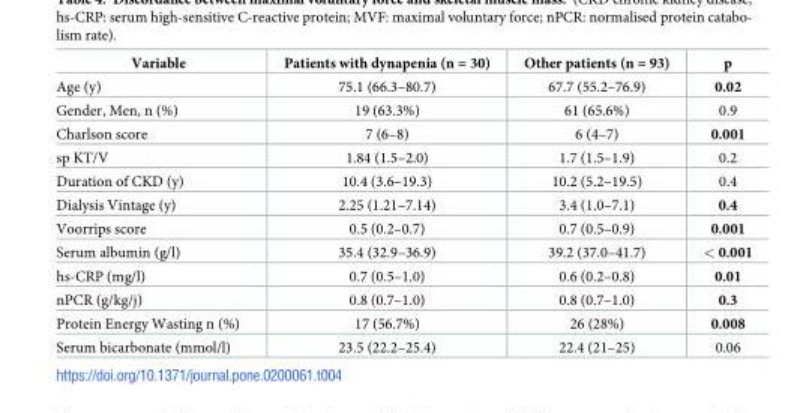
<table><thead><tr><td>Variable</td><td>Patients with dynapenia (n = 30)</td><td>Other patients (n = 93)</td><td>p</td></tr></thead><tbody><tr><td>Age (y)</td><td>75.1 (66.3–80.7)</td><td>67.7 (55.2–76.9)</td><td>0.02</td></tr><tr><td>Gender, Men, n (%)</td><td>19 (63.3%)</td><td>61 (65.6%)</td><td>0.9</td></tr><tr><td>Charlson score</td><td>7 (6–8)</td><td>6 (4–7)</td><td>0.001</td></tr><tr><td>sp KT/V</td><td>1.84 (1.5–2.0)</td><td>1.7 (1.5–1.9)</td><td>0.2</td></tr><tr><td>Duration of CKD (y)</td><td>10.4 (3.6–19.3)</td><td>10.2 (5.2–19.5)</td><td>0.4</td></tr><tr><td>Dialysis Vintage (y)</td><td>2.25 (1.21–7.14)</td><td>3.4 (1.0–7.1)</td><td>0.4</td></tr><tr><td>Voorrips score</td><td>0.5 (0.2–0.7)</td><td>0.7 (0.5–0.9)</td><td>0.001</td></tr><tr><td>Serum albumin (g/l)</td><td>35.4 (32.9–36.9)</td><td>39.2 (37.0–41.7)</td><td>&lt; 0.001</td></tr><tr><td>hs-CRP (mg/l)</td><td>0.7 (0.5–1.0)</td><td>0.6 (0.2–0.8)</td><td>0.01</td></tr><tr><td>nPCR (g/kg/j)</td><td>0.8 (0.7–1.0)</td><td>0.8 (0.7–1.0)</td><td>0.3</td></tr><tr><td>Protein Energy Wasting n (%)</td><td>17 (56.7%)</td><td>26 (28%)</td><td>0.008</td></tr><tr><td>Serum bicarbonate (mmol/l)</td><td>23.5 (22.2–25.4)</td><td>22.4 (21–25)</td><td>0.06</td></tr></tbody></table>